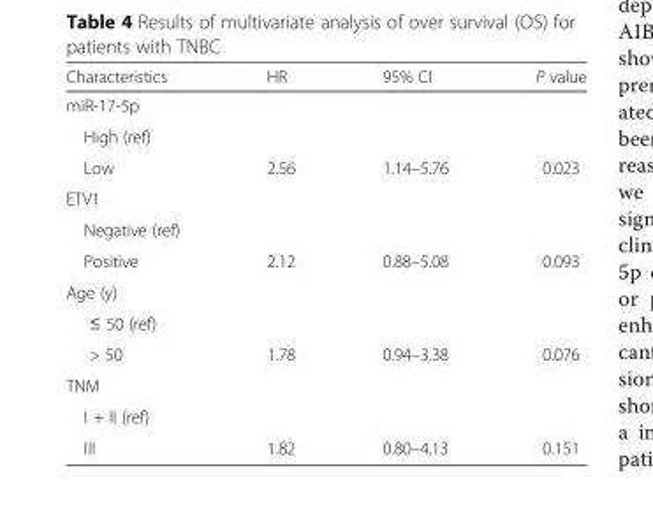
<table><thead><tr><td>Characteristics</td><td>HR</td><td>95% CI</td><td>P value</td></tr></thead><tbody><tr><td colspan="4">miR-17-5p</td></tr><tr><td colspan="4">High (ref)</td></tr><tr><td>Low</td><td>2.56</td><td>1.14–5.76</td><td>0.023</td></tr><tr><td colspan="4">ETV1</td></tr><tr><td colspan="4">Negative (ref)</td></tr><tr><td>Positive</td><td>2.12</td><td>0.88–5.08</td><td>0.093</td></tr><tr><td colspan="4">Age (y)</td></tr><tr><td colspan="4">≤ 50 (ref)</td></tr><tr><td>&gt; 50</td><td>1.78</td><td>0.94–3.38</td><td>0.076</td></tr><tr><td colspan="4">TNM</td></tr><tr><td colspan="4">I + II (ref)</td></tr><tr><td>III</td><td>1.82</td><td>0.80–4.13</td><td>0.151</td></tr></tbody></table>